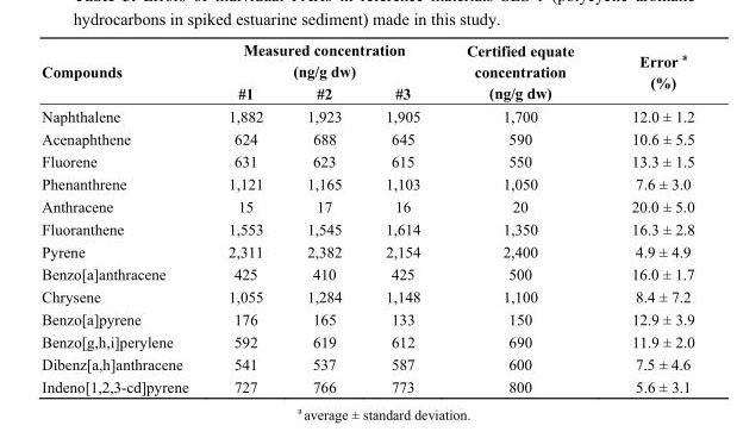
<table><thead><tr><td rowspan="2">Compounds</td><td colspan="3">Measured concentration (ng/g dw)</td><td rowspan="2">Certified equate concentration (ng/g dw)</td><td rowspan="2">Error <sup>a</sup> (%)</td></tr><tr><td>#1</td><td>#2</td><td>#3</td></tr></thead><tbody><tr><td>Naphthalene</td><td>1,882</td><td>1,923</td><td>1,905</td><td>1,700</td><td>12.0 ± 1.2</td></tr><tr><td>Acenaphthene</td><td>624</td><td>688</td><td>645</td><td>590</td><td>10.6 ± 5.5</td></tr><tr><td>Fluorene</td><td>631</td><td>623</td><td>615</td><td>550</td><td>13.3 ± 1.5</td></tr><tr><td>Phenanthrene</td><td>1,121</td><td>1,165</td><td>1,103</td><td>1,050</td><td>7.6 ± 3.0</td></tr><tr><td>Anthracene</td><td>15</td><td>17</td><td>16</td><td>20</td><td>20.0 ± 5.0</td></tr><tr><td>Fluoranthene</td><td>1,553</td><td>1,545</td><td>1,614</td><td>1,350</td><td>16.3 ± 2.8</td></tr><tr><td>Pyrene</td><td>2,311</td><td>2,382</td><td>2,154</td><td>2,400</td><td>4.9 ± 4.9</td></tr><tr><td>Benzo[a]anthracene</td><td>425</td><td>410</td><td>425</td><td>500</td><td>16.0 ± 1.7</td></tr><tr><td>Chrysene</td><td>1,055</td><td>1,284</td><td>1,148</td><td>1,100</td><td>8.4 ± 7.2</td></tr><tr><td>Benzo[a]pyrene</td><td>176</td><td>165</td><td>133</td><td>150</td><td>12.9 ± 3.9</td></tr><tr><td>Benzo[g,h,i]perylene</td><td>592</td><td>619</td><td>612</td><td>690</td><td>11.9 ± 2.0</td></tr><tr><td>Dibenz[a,h]anthracene</td><td>541</td><td>537</td><td>587</td><td>600</td><td>7.5 ± 4.6</td></tr><tr><td>Indeno[1,2,3-cd]pyrene</td><td>727</td><td>766</td><td>773</td><td>800</td><td>5.6 ± 3.1</td></tr></tbody></table>